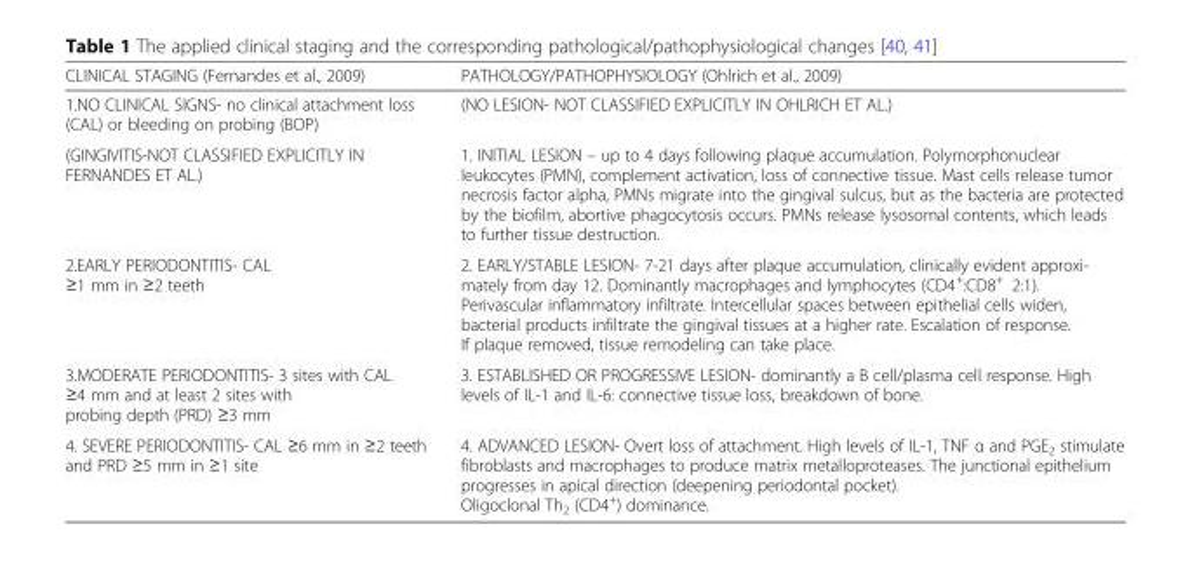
<table><thead><tr><td>CLINICAL STAGING (Fernandes et al., 2009)</td><td>PATHOLOGY/PATHOPHYSIOLOGY (Ohlrich et al., 2009)</td></tr></thead><tbody><tr><td>1.NO CLINICAL SIGNS- no clinical attachment loss (CAL) or bleeding on probing (BOP)</td><td>(NO LESION- NOT CLASSIFIED EXPLICITLY IN OHLRICH ET AL.)</td></tr><tr><td>(GINGIVITIS-NOT CLASSIFIED EXPLICITLY IN FERNANDES ET AL.)</td><td>1. INITIAL LESION – up to 4 days following plaque accumulation. Polymorphonuclear leukocytes (PMN), complement activation, loss of connective tissue. Mast cells release tumor necrosis factor alpha, PMNs migrate into the gingival sulcus, but as the bacteria are protected by the biofilm, abortive phagocytosis occurs. PMNs release lysosomal contents, which leads to further tissue destruction.</td></tr><tr><td>2.EARLY PERIODONTITIS- CAL ≥1 mm in ≥2 teeth</td><td>2. EARLY/STABLE LESION- 7-21 days after plaque accumulation, clinically evident approxi- mately from day 12. Dominantly macrophages and lymphocytes (CD4+:CD8+ 2:1). Perivascular inflammatory infiltrate. Intercellular spaces between epithelial cells widen, bacterial products infiltrate the gingival tissues at a higher rate. Escalation of response. If plaque removed, tissue remodeling can take place.</td></tr><tr><td>3.MODERATE PERIODONTITIS- 3 sites with CAL ≥4 mm and at least 2 sites with probing depth (PRD) ≥3 mm</td><td>3. ESTABLISHED OR PROGRESSIVE LESION- dominantly a B cell/plasma cell response. High levels of IL-1 and IL-6: connective tissue loss, breakdown of bone.</td></tr><tr><td>4. SEVERE PERIODONTITIS- CAL ≥6 mm in ≥2 teeth and PRD ≥5 mm in ≥1 site</td><td>4. ADVANCED LESION- Overt loss of attachment. High levels of IL-1, TNF α and PGE<sub>2</sub> stimulate fibroblasts and macrophages to produce matrix metalloproteases. The junctional epithelium progresses in apical direction (deepening periodontal pocket). Oligoclonal Th<sub>2</sub> (CD4<sup>+</sup>) dominance.</td></tr></tbody></table>